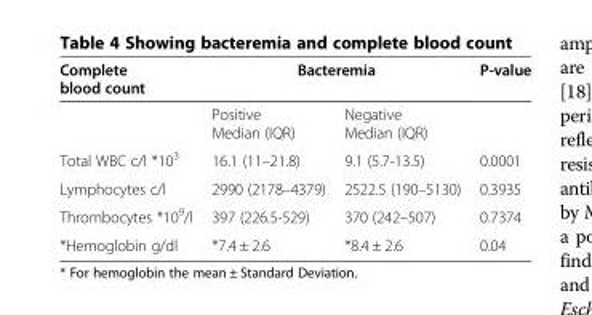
<table><thead><tr><td rowspan="2">Complete blood count</td><td colspan="2">Bacteremia</td><td rowspan="2">P-value</td></tr><tr><td>Positive Median (IQR)</td><td>Negative Median (IQR)</td></tr></thead><tbody><tr><td>Total WBC c/l *10<sup>3</sup></td><td>16.1 (11–21.8)</td><td>9.1 (5.7-13.5)</td><td>0.0001</td></tr><tr><td>Lymphocytes c/l</td><td>2990 (2178–4379)</td><td>2522.5 (190–5130)</td><td>0.3935</td></tr><tr><td>Thrombocytes *10<sup>9</sup>/l</td><td>397 (226.5-529)</td><td>370 (242–507)</td><td>0.7374</td></tr><tr><td>*Hemoglobin g/dl</td><td>*7.4 ± 2.6</td><td>*8.4 ± 2.6</td><td>0.04</td></tr></tbody></table>